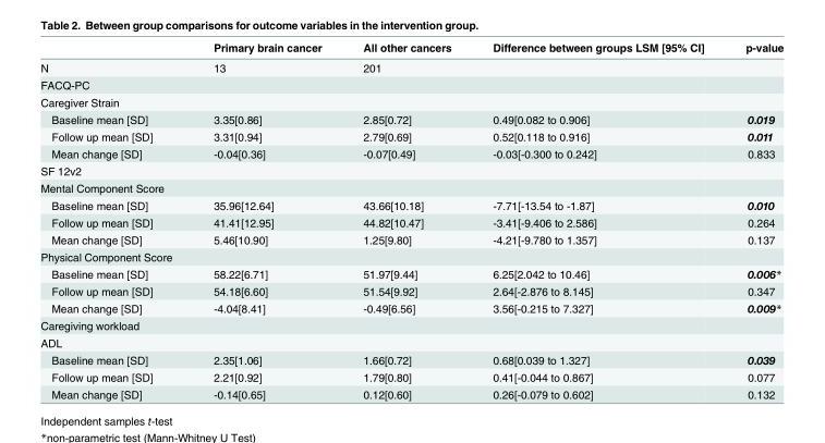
<table><thead><tr><td></td><td>Primary brain cancer</td><td>All other cancers</td><td>Difference between groups LSM [95% CI]</td><td>p-value</td></tr></thead><tbody><tr><td>N</td><td>13</td><td>201</td><td></td><td></td></tr><tr><td colspan="5">FACQ-PC</td></tr><tr><td colspan="5">Caregiver Strain</td></tr><tr><td>Baseline mean [SD]</td><td>3.35[0.86]</td><td>2.85[0.72]</td><td>0.49[0.082 to 0.906]</td><td>0.019</td></tr><tr><td>Follow up mean [SD]</td><td>3.31[0.94]</td><td>2.79[0.69]</td><td>0.52[0.118 to 0.916]</td><td>0.011</td></tr><tr><td>Mean change [SD]</td><td>-0.04[0.36]</td><td>-0.07[0.49]</td><td>-0.03[-0.300 to 0.242]</td><td>0.833</td></tr><tr><td colspan="5">SF 12v2</td></tr><tr><td colspan="5">Mental Component Score</td></tr><tr><td>Baseline mean [SD]</td><td>35.96[12.64]</td><td>43.66[10.18]</td><td>-7.71[-13.54 to -1.87]</td><td>0.010</td></tr><tr><td>Follow up mean [SD]</td><td>41.41[12.95]</td><td>44.82[10.47]</td><td>-3.41[-9.406 to 2.586]</td><td>0.264</td></tr><tr><td>Mean change [SD]</td><td>5.46[10.90]</td><td>1.25[9.80]</td><td>-4.21[-9.780 to 1.357]</td><td>0.137</td></tr><tr><td colspan="5">Physical Component Score</td></tr><tr><td>Baseline mean [SD]</td><td>58.22[6.71]</td><td>51.97[9.44]</td><td>6.25[2.042 to 10.46]</td><td>0.006*</td></tr><tr><td>Follow up mean [SD]</td><td>54.18[6.60]</td><td>51.54[9.92]</td><td>2.64[-2.876 to 8.145]</td><td>0.347</td></tr><tr><td>Mean change [SD]</td><td>-4.04[8.41]</td><td>-0.49[6.56]</td><td>3.56[-0.215 to 7.327]</td><td>0.009*</td></tr><tr><td colspan="5">Caregiving workload</td></tr><tr><td colspan="5">ADL</td></tr><tr><td>Baseline mean [SD]</td><td>2.35[1.06]</td><td>1.66[0.72]</td><td>0.68[0.039 to 1.327]</td><td>0.039</td></tr><tr><td>Follow up mean [SD]</td><td>2.21[0.92]</td><td>1.79[0.80]</td><td>0.41[-0.044 to 0.867]</td><td>0.077</td></tr><tr><td>Mean change [SD]</td><td>-0.14[0.65]</td><td>0.12[0.60]</td><td>0.26[-0.079 to 0.602]</td><td>0.132</td></tr></tbody></table>